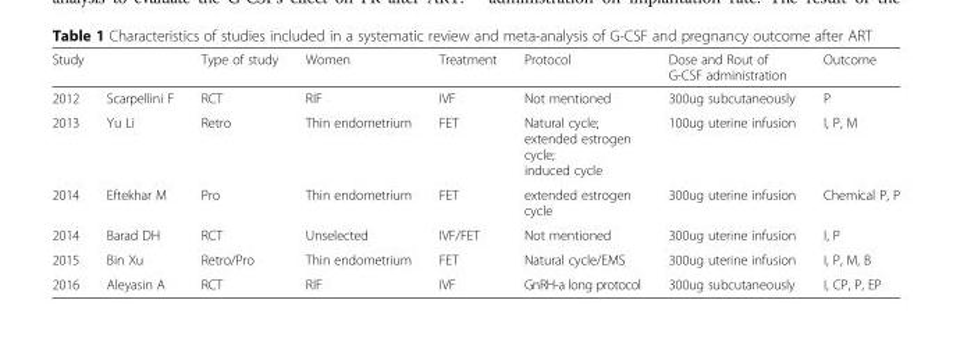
<table><thead><tr><td colspan="2">Study</td><td rowspan="2">Type of study RCT</td><td rowspan="2">Women RIF</td><td rowspan="2">Treatment IVF</td><td rowspan="2">Protocol Not mentioned</td><td rowspan="2">Dose and Rout of G-CSF administration 300ug subcutaneously</td><td rowspan="2">Outcome P</td></tr><tr><td>2012</td><td>Scarpellini F</td></tr></thead><tbody><tr><td>2013</td><td>Yu Li</td><td>Retro</td><td>Thin endometrium</td><td>FET</td><td>Natural cycle; extended estrogen cycle; induced cycle</td><td>100ug uterine infusion</td><td>I, P, M</td></tr><tr><td>2014</td><td>Eftekhar M</td><td>Pro</td><td>Thin endometrium</td><td>FET</td><td>extended estrogen cycle</td><td>300ug uterine infusion</td><td>Chemical P, P</td></tr><tr><td>2014</td><td>Barad DH</td><td>RCT</td><td>Unselected</td><td>IVF/FET</td><td>Not mentioned</td><td>300ug uterine infusion</td><td>I, P</td></tr><tr><td>2015</td><td>Bin Xu</td><td>Retro/Pro</td><td>Thin endometrium</td><td>FET</td><td>Natural cycle/EMS</td><td>300ug uterine infusion</td><td>I, P, M, B</td></tr><tr><td>2016</td><td>Aleyasin A</td><td>RCT</td><td>RIF</td><td>IVF</td><td>GnRH-a long protocol</td><td>300ug subcutaneously</td><td>I, CP, P, EP</td></tr></tbody></table>